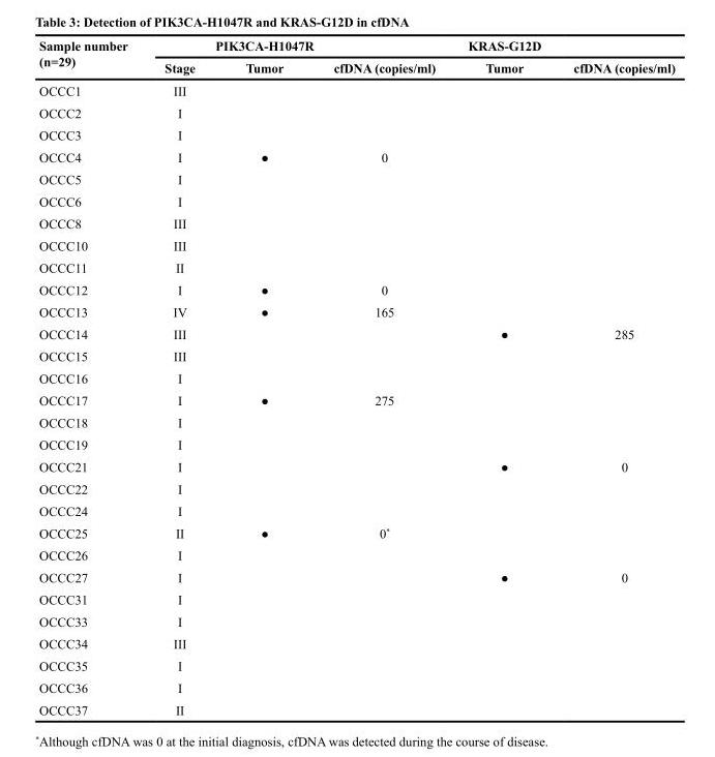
<table><thead><tr><td rowspan="2">Sample number (n=29)</td><td colspan="3">PIK3CA-H1047R</td><td colspan="2">KRAS-G12D</td></tr><tr><td>Stage</td><td>Tumor</td><td>cfDNA (copies/ml)</td><td>Tumor</td><td>cfDNA (copies/ml)</td></tr></thead><tbody><tr><td>OCCC1</td><td>III</td><td></td><td></td><td></td><td></td></tr><tr><td>OCCC2</td><td>I</td><td></td><td></td><td></td><td></td></tr><tr><td>OCCC3</td><td>I</td><td></td><td></td><td></td><td></td></tr><tr><td>OCCC4</td><td>I</td><td>●</td><td>0</td><td></td><td></td></tr><tr><td>OCCC5</td><td>I</td><td></td><td></td><td></td><td></td></tr><tr><td>OCCC6</td><td>I</td><td></td><td></td><td></td><td></td></tr><tr><td>OCCC8</td><td>III</td><td></td><td></td><td></td><td></td></tr><tr><td>OCCC10</td><td>III</td><td></td><td></td><td></td><td></td></tr><tr><td>OCCC11</td><td>II</td><td></td><td></td><td></td><td></td></tr><tr><td>OCCC12</td><td>I</td><td>●</td><td>0</td><td></td><td></td></tr><tr><td>OCCC13</td><td>IV</td><td>●</td><td>165</td><td></td><td></td></tr><tr><td>OCCC14</td><td>III</td><td></td><td></td><td>●</td><td>285</td></tr><tr><td>OCCC15</td><td>III</td><td></td><td></td><td></td><td></td></tr><tr><td>OCCC16</td><td>I</td><td></td><td></td><td></td><td></td></tr><tr><td>OCCC17</td><td>I</td><td>●</td><td>275</td><td></td><td></td></tr><tr><td>OCCC18</td><td>I</td><td></td><td></td><td></td><td></td></tr><tr><td>OCCC19</td><td>I</td><td></td><td></td><td></td><td></td></tr><tr><td>OCCC21</td><td>I</td><td></td><td></td><td>●</td><td>0</td></tr><tr><td>OCCC22</td><td>I</td><td></td><td></td><td></td><td></td></tr><tr><td>OCCC24</td><td>I</td><td></td><td></td><td></td><td></td></tr><tr><td>OCCC25</td><td>II</td><td>●</td><td>0*</td><td></td><td></td></tr><tr><td>OCCC26</td><td>I</td><td></td><td></td><td></td><td></td></tr><tr><td>OCCC27</td><td>I</td><td></td><td></td><td>●</td><td>0</td></tr><tr><td>OCCC31</td><td>I</td><td></td><td></td><td></td><td></td></tr><tr><td>OCCC33</td><td>I</td><td></td><td></td><td></td><td></td></tr><tr><td>OCCC34</td><td>III</td><td></td><td></td><td></td><td></td></tr><tr><td>OCCC35</td><td>I</td><td></td><td></td><td></td><td></td></tr><tr><td>OCCC36</td><td>I</td><td></td><td></td><td></td><td></td></tr><tr><td>OCCC37</td><td>II</td><td></td><td></td><td></td><td></td></tr></tbody></table>